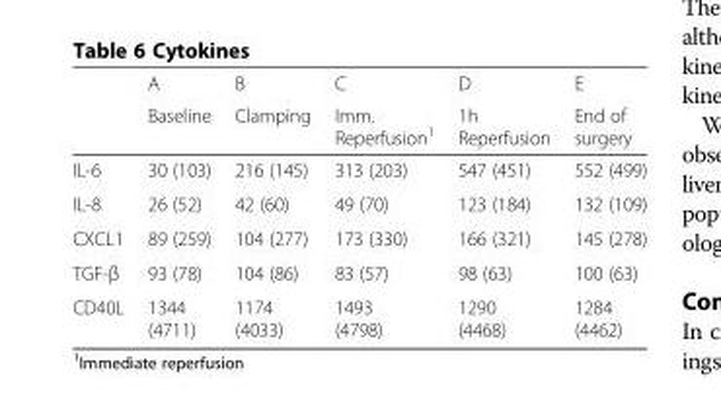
<table><thead><tr><td rowspan="2"></td><td rowspan="2">A Baseline</td><td rowspan="2">B Clamping</td><td rowspan="2">C Imm. Reperfusion<sup>1</sup></td><td rowspan="2">D 1h Reperfusion</td><td rowspan="2">E End of surgery</td></tr><tr></tr></thead><tbody><tr><td>IL-6</td><td>30 (103)</td><td>216 (145)</td><td>313 (203)</td><td>547 (451)</td><td>552 (499)</td></tr><tr><td>IL-8</td><td>26 (52)</td><td>42 (60)</td><td>49 (70)</td><td>123 (184)</td><td>132 (109)</td></tr><tr><td>CXCL1</td><td>89 (259)</td><td>104 (277)</td><td>173 (330)</td><td>166 (321)</td><td>145 (278)</td></tr><tr><td>TGF-β</td><td>93 (78)</td><td>104 (86)</td><td>83 (57)</td><td>98 (63)</td><td>100 (63)</td></tr><tr><td>CD40L</td><td>1344 (4711)</td><td>1174 (4033)</td><td>1493 (4798)</td><td>1290 (4468)</td><td>1284 (4462)</td></tr></tbody></table>